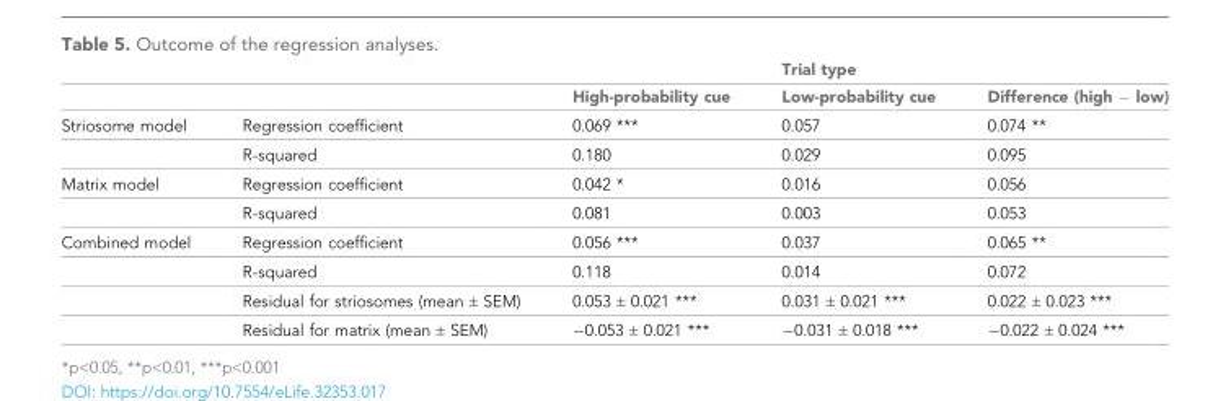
<table><thead><tr><td rowspan="2"></td><td rowspan="2"></td><td rowspan="2">High-probability cue</td><td rowspan="2">Trial type Low-probability cue</td><td rowspan="2">Difference (high − low)</td></tr><tr></tr></thead><tbody><tr><td rowspan="2">Striosome model</td><td>Regression coefficient</td><td>0.069 ***</td><td>0.057</td><td>0.074 **</td></tr><tr><td>R-squared</td><td>0.180</td><td>0.029</td><td>0.095</td></tr><tr><td rowspan="2">Matrix model</td><td>Regression coefficient</td><td>0.042 *</td><td>0.016</td><td>0.056</td></tr><tr><td>R-squared</td><td>0.081</td><td>0.003</td><td>0.053</td></tr><tr><td rowspan="4">Combined model</td><td>Regression coefficient</td><td>0.056 ***</td><td>0.037</td><td>0.065 **</td></tr><tr><td>R-squared</td><td>0.118</td><td>0.014</td><td>0.072</td></tr><tr><td>Residual for striosomes (mean ± SEM)</td><td>0.053 ± 0.021 ***</td><td>0.031 ± 0.021 ***</td><td>0.022 ± 0.023 ***</td></tr><tr><td>Residual for matrix (mean ± SEM)</td><td>−0.053 ± 0.021 ***</td><td>−0.031 ± 0.018 ***</td><td>−0.022 ± 0.024 ***</td></tr></tbody></table>